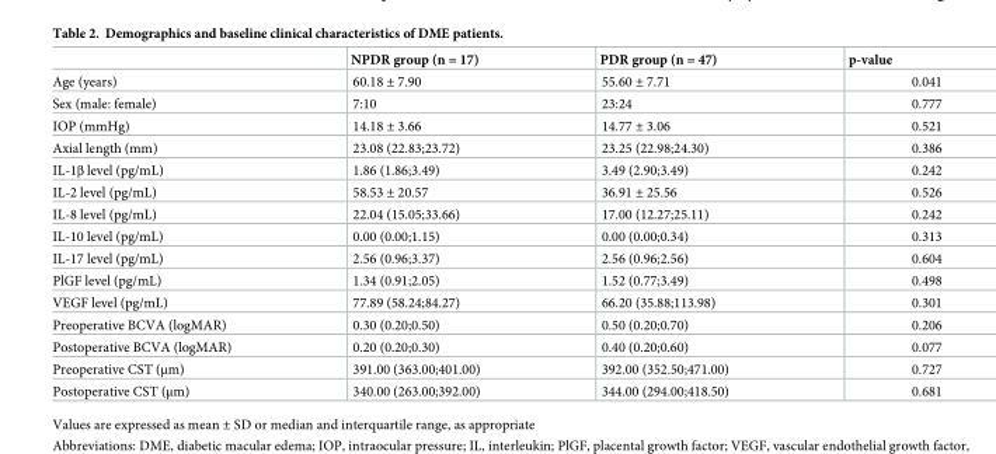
<table><thead><tr><td></td><td>NPDR group (n = 17)</td><td>PDR group (n = 47)</td><td>p-value</td></tr></thead><tbody><tr><td>Age (years)</td><td>60.18 ± 7.90</td><td>55.60 ± 7.71</td><td>0.041</td></tr><tr><td>Sex (male: female)</td><td>7:10</td><td>23:24</td><td>0.777</td></tr><tr><td>IOP (mmHg)</td><td>14.18 ± 3.66</td><td>14.77 ± 3.06</td><td>0.521</td></tr><tr><td>Axial length (mm)</td><td>23.08 (22.83;23.72)</td><td>23.25 (22.98;24.30)</td><td>0.386</td></tr><tr><td>IL-1β level (pg/mL)</td><td>1.86 (1.86;3.49)</td><td>3.49 (2.90;3.49)</td><td>0.242</td></tr><tr><td>IL-2 level (pg/mL)</td><td>58.53 ± 20.57</td><td>36.91 ± 25.56</td><td>0.526</td></tr><tr><td>IL-8 level (pg/mL)</td><td>22.04 (15.05;33.66)</td><td>17.00 (12.27;25.11)</td><td>0.242</td></tr><tr><td>IL-10 level (pg/mL)</td><td>0.00 (0.00;1.15)</td><td>0.00 (0.00;0.34)</td><td>0.313</td></tr><tr><td>IL-17 level (pg/mL)</td><td>2.56 (0.96;3.37)</td><td>2.56 (0.96;2.56)</td><td>0.604</td></tr><tr><td>PlGF level (pg/mL)</td><td>1.34 (0.91;2.05)</td><td>1.52 (0.77;3.49)</td><td>0.498</td></tr><tr><td>VEGF level (pg/mL)</td><td>77.89 (58.24;84.27)</td><td>66.20 (35.88;113.98)</td><td>0.301</td></tr><tr><td>Preoperative BCVA (logMAR)</td><td>0.30 (0.20;0.50)</td><td>0.50 (0.20;0.70)</td><td>0.206</td></tr><tr><td>Postoperative BCVA (logMAR)</td><td>0.20 (0.20;0.30)</td><td>0.40 (0.20;0.60)</td><td>0.077</td></tr><tr><td>Preoperative CST (μm)</td><td>391.00 (363.00;401.00)</td><td>392.00 (352.50;471.00)</td><td>0.727</td></tr><tr><td>Postoperative CST (μm)</td><td>340.00 (263.00;392.00)</td><td>344.00 (294.00;418.50)</td><td>0.681</td></tr></tbody></table>